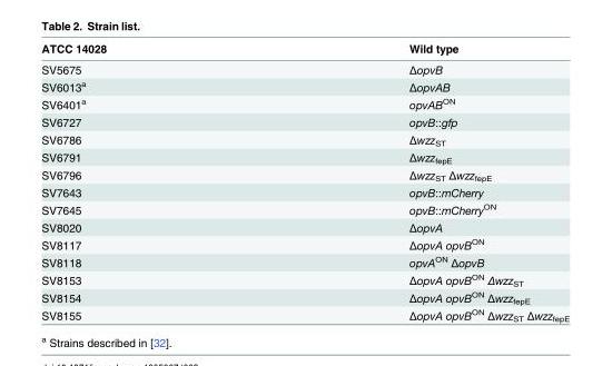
<table><thead><tr><td>ATCC 14028</td><td>Wild type</td></tr></thead><tbody><tr><td>SV5675</td><td>ΔopvB</td></tr><tr><td>SV6013<sup>a</sup></td><td>ΔopvAB</td></tr><tr><td>SV6401<sup>a</sup></td><td>opvAB<sup>ON</sup></td></tr><tr><td>SV6727</td><td>opvB::gfp</td></tr><tr><td>SV6786</td><td>Δwzz<sub>ST</sub></td></tr><tr><td>SV6791</td><td>Δwzz<sub>fepE</sub></td></tr><tr><td>SV6796</td><td>Δwzz<sub>ST</sub> Δwzz<sub>fepE</sub></td></tr><tr><td>SV7643</td><td>opvB::mCherry</td></tr><tr><td>SV7645</td><td>opvB::mCherry<sup>ON</sup></td></tr><tr><td>SV8020</td><td>ΔopvA</td></tr><tr><td>SV8117</td><td>ΔopvA opvB<sup>ON</sup></td></tr><tr><td>SV8118</td><td>opvA<sup>ON</sup> ΔopvB</td></tr><tr><td>SV8153</td><td>ΔopvA opvB<sup>ON</sup> Δwzz<sub>ST</sub></td></tr><tr><td>SV8154</td><td>ΔopvA opvB<sup>ON</sup> Δwzz<sub>fepE</sub></td></tr><tr><td>SV8155</td><td>ΔopvA opvB<sup>ON</sup> Δwzz<sub>ST</sub> Δwzz<sub>fepE</sub></td></tr></tbody></table>